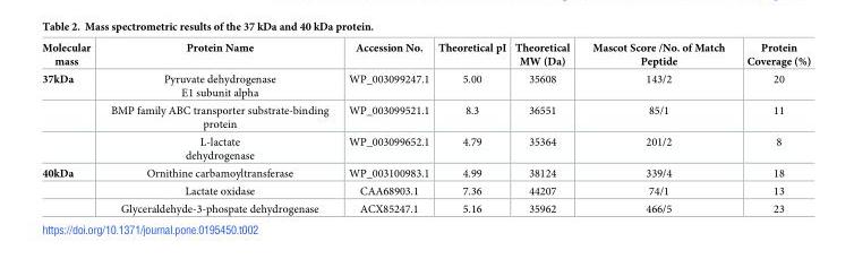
<table><thead><tr><td>Molecular mass</td><td>Protein Name</td><td>Accession No.</td><td>Theoretical pI</td><td>Theoretical MW (Da)</td><td>Mascot Score /No. of Match Peptide</td><td>Protein Coverage (%)</td></tr></thead><tbody><tr><td rowspan="3">37kDa</td><td>Pyruvate dehydrogenase E1 subunit alpha</td><td>WP_003099247.1</td><td>5.00</td><td>35608</td><td>143/2</td><td>20</td></tr><tr><td>BMP family ABC transporter substrate-binding protein</td><td>WP_003099521.1</td><td>8.3</td><td>36551</td><td>85/1</td><td>11</td></tr><tr><td>L-lactate dehydrogenase</td><td>WP_003099652.1</td><td>4.79</td><td>35364</td><td>201/2</td><td>8</td></tr><tr><td rowspan="3">40kDa</td><td>Ornithine carbamoyltransferase</td><td>WP_003100983.1</td><td>4.99</td><td>38124</td><td>339/4</td><td>18</td></tr><tr><td>Lactate oxidase</td><td>CAA68903.1</td><td>7.36</td><td>44207</td><td>74/1</td><td>13</td></tr><tr><td>Glyceraldehyde-3-phospate dehydrogenase</td><td>ACX85247.1</td><td>5.16</td><td>35962</td><td>466/5</td><td>23</td></tr></tbody></table>